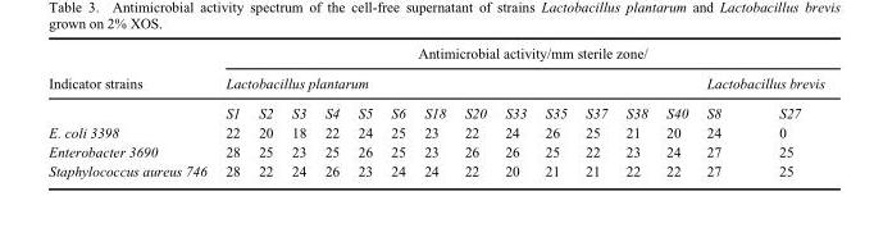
<table><thead><tr><td rowspan="3">Indicator strains</td><td colspan="15">Antimicrobial activity/mm sterile zone/</td></tr><tr><td colspan="13">Lactobacillus plantarum</td><td colspan="2">Lactobacillus brevis</td></tr><tr><td>S1</td><td>S2</td><td>S3</td><td>S4</td><td>S5</td><td>S6</td><td>S18</td><td>S20</td><td>S33</td><td>S35</td><td>S37</td><td>S38</td><td>S40</td><td>S8</td><td>S27</td></tr></thead><tbody><tr><td>E. coli 3398</td><td>22</td><td>20</td><td>18</td><td>22</td><td>24</td><td>25</td><td>23</td><td>22</td><td>24</td><td>26</td><td>25</td><td>21</td><td>20</td><td>24</td><td>0</td></tr><tr><td>Enterobacter 3690</td><td>28</td><td>25</td><td>23</td><td>25</td><td>26</td><td>25</td><td>23</td><td>26</td><td>26</td><td>25</td><td>22</td><td>23</td><td>24</td><td>27</td><td>25</td></tr><tr><td>Staphylococcus aureus 746</td><td>28</td><td>22</td><td>24</td><td>26</td><td>23</td><td>24</td><td>24</td><td>22</td><td>20</td><td>21</td><td>21</td><td>22</td><td>22</td><td>27</td><td>25</td></tr></tbody></table>